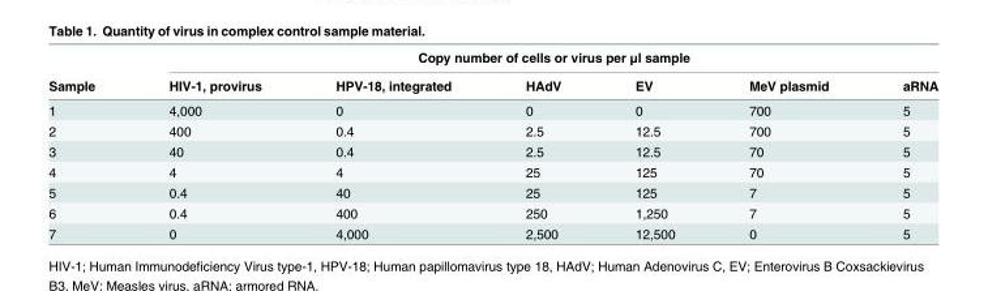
<table><thead><tr><td rowspan="2">Sample</td><td colspan="6">Copy number of cells or virus per μl sample</td></tr><tr><td>HIV-1, provirus</td><td>HPV-18, integrated</td><td>HAdV</td><td>EV</td><td>MeV plasmid</td><td>aRNA</td></tr></thead><tbody><tr><td>1</td><td>4,000</td><td>0</td><td>0</td><td>0</td><td>700</td><td>5</td></tr><tr><td>2</td><td>400</td><td>0.4</td><td>2.5</td><td>12.5</td><td>700</td><td>5</td></tr><tr><td>3</td><td>40</td><td>0.4</td><td>2.5</td><td>12.5</td><td>70</td><td>5</td></tr><tr><td>4</td><td>4</td><td>4</td><td>25</td><td>125</td><td>70</td><td>5</td></tr><tr><td>5</td><td>0.4</td><td>40</td><td>25</td><td>125</td><td>7</td><td>5</td></tr><tr><td>6</td><td>0.4</td><td>400</td><td>250</td><td>1,250</td><td>7</td><td>5</td></tr><tr><td>7</td><td>0</td><td>4,000</td><td>2,500</td><td>12,500</td><td>0</td><td>5</td></tr></tbody></table>